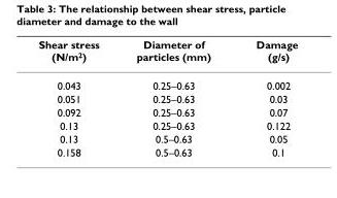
<table><thead><tr><td>Shear stress (N/m<sup>2</sup>)</td><td>Diameter of particles (mm)</td><td>Damage (g/s)</td></tr></thead><tbody><tr><td>0.043</td><td>0.25–0.63</td><td>0.002</td></tr><tr><td>0.051</td><td>0.25–0.63</td><td>0.03</td></tr><tr><td>0.092</td><td>0.25–0.63</td><td>0.07</td></tr><tr><td>0.13</td><td>0.25–0.63</td><td>0.122</td></tr><tr><td>0.13</td><td>0.5–0.63</td><td>0.05</td></tr><tr><td>0.158</td><td>0.5–0.63</td><td>0.1</td></tr></tbody></table>